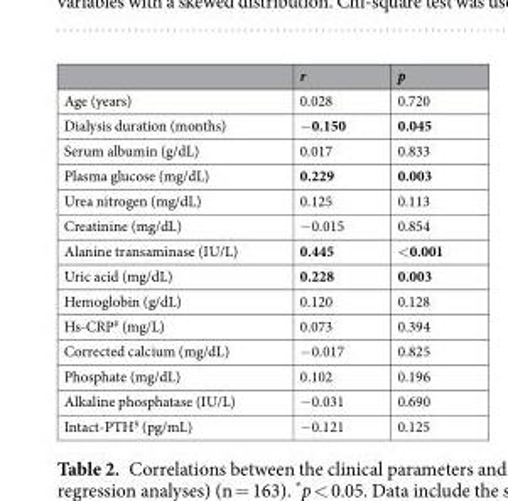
<table><thead><tr><td></td><td>r</td><td>p</td></tr></thead><tbody><tr><td>Age (years)</td><td>0.028</td><td>0.720</td></tr><tr><td>Dialysis duration (months)</td><td>−0.150</td><td>0.045</td></tr><tr><td>Serum albumin (g/dL)</td><td>0.017</td><td>0.833</td></tr><tr><td>Plasma glucose (mg/dL)</td><td>0.229</td><td>0.003</td></tr><tr><td>Urea nitrogen (mg/dL)</td><td>0.125</td><td>0.113</td></tr><tr><td>Creatinine (mg/dL)</td><td>−0.015</td><td>0.854</td></tr><tr><td>Alanine transaminase (IU/L)</td><td>0.445</td><td>&lt;0.001</td></tr><tr><td>Uric acid (mg/dL)</td><td>0.228</td><td>0.003</td></tr><tr><td>Hemoglobin (g/dL)</td><td>0.120</td><td>0.128</td></tr><tr><td>Hs-CRP<sup>‡</sup> (mg/L)</td><td>0.073</td><td>0.394</td></tr><tr><td>Corrected calcium (mg/dL)</td><td>−0.017</td><td>0.825</td></tr><tr><td>Phosphate (mg/dL)</td><td>0.102</td><td>0.196</td></tr><tr><td>Alkaline phosphatase (IU/L)</td><td>−0.031</td><td>0.690</td></tr><tr><td>Intact-PTH<sup>§</sup> (pg/mL)</td><td>−0.121</td><td>0.125</td></tr></tbody></table>